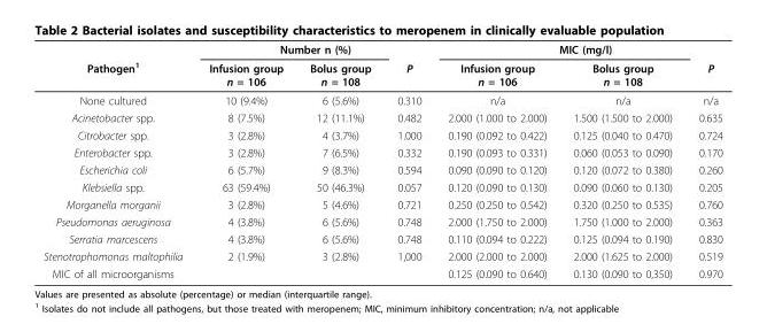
<table><thead><tr><td rowspan="2">Pathogen<sup>1</sup></td><td colspan="3">Number n (%)</td><td colspan="3">MIC (mg/l)</td></tr><tr><td>Infusion group n = 106</td><td>Bolus group n = 108</td><td>P</td><td>Infusion group n = 106</td><td>Bolus group n = 108</td><td>P</td></tr></thead><tbody><tr><td>None cultured</td><td>10 (9.4%)</td><td>6 (5.6%)</td><td>0.310</td><td>n/a</td><td>n/a</td><td>n/a</td></tr><tr><td>Acinetobacter spp.</td><td>8 (7.5%)</td><td>12 (11.1%)</td><td>0.482</td><td>2.000 (1.000 to 2.000)</td><td>1.500 (1.500 to 2.000)</td><td>0.635</td></tr><tr><td>Citrobacter spp.</td><td>3 (2.8%)</td><td>4 (3.7%)</td><td>1.000</td><td>0.190 (0.092 to 0.422)</td><td>0.125 (0.040 to 0.470)</td><td>0.724</td></tr><tr><td>Enterobacter spp.</td><td>3 (2.8%)</td><td>7 (6.5%)</td><td>0.332</td><td>0.190 (0.093 to 0.331)</td><td>0.060 (0.053 to 0.090)</td><td>0.170</td></tr><tr><td>Escherichia coli</td><td>6 (5.7%)</td><td>9 (8.3%)</td><td>0.594</td><td>0.090 (0.090 to 0.120)</td><td>0.120 (0.072 to 0.380)</td><td>0.260</td></tr><tr><td>Klebsiella spp.</td><td>63 (59.4%)</td><td>50 (46.3%)</td><td>0.057</td><td>0.120 (0.090 to 0.130)</td><td>0.090 (0.060 to 0.130)</td><td>0.205</td></tr><tr><td>Morganella morganii</td><td>3 (2.8%)</td><td>5 (4.6%)</td><td>0.721</td><td>0.250 (0.250 to 0.542)</td><td>0.320 (0.250 to 0.535)</td><td>0.760</td></tr><tr><td>Pseudomonas aeruginosa</td><td>4 (3.8%)</td><td>6 (5.6%)</td><td>0.748</td><td>2.000 (1.750 to 2.000)</td><td>1.750 (1.000 to 2.000)</td><td>0.363</td></tr><tr><td>Serratia marcescens</td><td>4 (3.8%)</td><td>6 (5.6%)</td><td>0.748</td><td>0.110 (0.094 to 0.222)</td><td>0.125 (0.094 to 0.190)</td><td>0.830</td></tr><tr><td>Stenotrophomonas maltophilia</td><td>2 (1.9%)</td><td>3 (2.8%)</td><td>1,000</td><td>2.000 (2.000 to 2.000)</td><td>2.000 (1.625 to 2.000)</td><td>0.519</td></tr><tr><td>MIC of all microorganisms</td><td></td><td></td><td></td><td>0.125 (0.090 to 0.640)</td><td>0.130 (0.090 to 0,350)</td><td>0.970</td></tr></tbody></table>